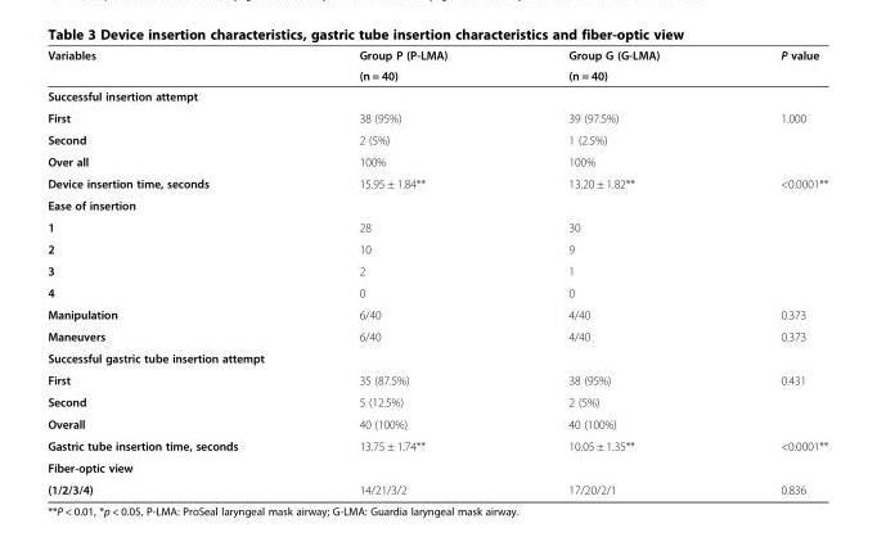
<table><thead><tr><td rowspan="2">Variables</td><td rowspan="2">Group P (P-LMA) (n = 40)</td><td rowspan="2">Group G (G-LMA) (n = 40)</td><td rowspan="2">P value</td></tr><tr></tr></thead><tbody><tr><td colspan="4">Successful insertion attempt</td></tr><tr><td>First</td><td>38 (95%)</td><td>39 (97.5%)</td><td>1.000</td></tr><tr><td>Second</td><td>2 (5%)</td><td>1 (2.5%)</td><td></td></tr><tr><td>Over all</td><td>100%</td><td>100%</td><td></td></tr><tr><td>Device insertion time, seconds</td><td>15.95 ± 1.84**</td><td>13.20 ± 1.82**</td><td>&lt;0.0001**</td></tr><tr><td colspan="4">Ease of insertion</td></tr><tr><td>1</td><td>28</td><td>30</td><td></td></tr><tr><td>2</td><td>10</td><td>9</td><td></td></tr><tr><td>3</td><td>2</td><td>1</td><td></td></tr><tr><td>4</td><td>0</td><td>0</td><td></td></tr><tr><td>Manipulation</td><td>6/40</td><td>4/40</td><td>0.373</td></tr><tr><td>Maneuvers</td><td>6/40</td><td>4/40</td><td>0.373</td></tr><tr><td colspan="4">Successful gastric tube insertion attempt</td></tr><tr><td>First</td><td>35 (87.5%)</td><td>38 (95%)</td><td>0.431</td></tr><tr><td>Second</td><td>5 (12.5%)</td><td>2 (5%)</td><td></td></tr><tr><td>Overall</td><td>40 (100%)</td><td>40 (100%)</td><td></td></tr><tr><td>Gastric tube insertion time, seconds</td><td>13.75 ± 1.74**</td><td>10.05 ± 1.35**</td><td>&lt;0.0001**</td></tr><tr><td colspan="4">Fiber-optic view</td></tr><tr><td>(1/2/3/4)</td><td>14/21/3/2</td><td>17/20/2/1</td><td>0.836</td></tr></tbody></table>